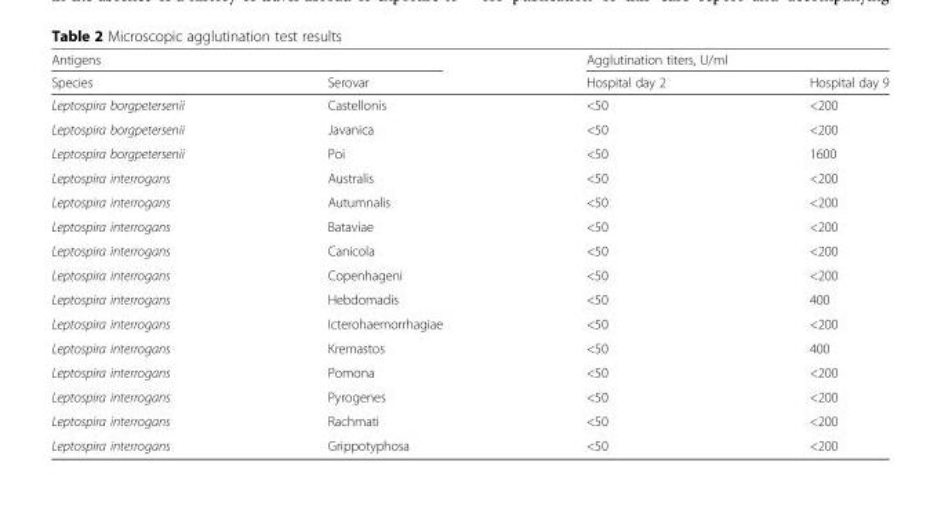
<table><thead><tr><td colspan="2">Antigens</td><td colspan="2">Agglutination titers, U/ml</td></tr><tr><td>Species</td><td>Serovar</td><td>Hospital day 2</td><td>Hospital day 9</td></tr></thead><tbody><tr><td>Leptospira borgpetersenii</td><td>Castellonis</td><td>&lt;50</td><td>&lt;200</td></tr><tr><td>Leptospira borgpetersenii</td><td>Javanica</td><td>&lt;50</td><td>&lt;200</td></tr><tr><td>Leptospira borgpetersenii</td><td>Poi</td><td>&lt;50</td><td>1600</td></tr><tr><td>Leptospira interrogans</td><td>Australis</td><td>&lt;50</td><td>&lt;200</td></tr><tr><td>Leptospira interrogans</td><td>Autumnalis</td><td>&lt;50</td><td>&lt;200</td></tr><tr><td>Leptospira interrogans</td><td>Bataviae</td><td>&lt;50</td><td>&lt;200</td></tr><tr><td>Leptospira interrogans</td><td>Canicola</td><td>&lt;50</td><td>&lt;200</td></tr><tr><td>Leptospira interrogans</td><td>Copenhageni</td><td>&lt;50</td><td>&lt;200</td></tr><tr><td>Leptospira interrogans</td><td>Hebdomadis</td><td>&lt;50</td><td>400</td></tr><tr><td>Leptospira interrogans</td><td>Icterohaemorrhagiae</td><td>&lt;50</td><td>&lt;200</td></tr><tr><td>Leptospira interrogans</td><td>Kremastos</td><td>&lt;50</td><td>400</td></tr><tr><td>Leptospira interrogans</td><td>Pomona</td><td>&lt;50</td><td>&lt;200</td></tr><tr><td>Leptospira interrogans</td><td>Pyrogenes</td><td>&lt;50</td><td>&lt;200</td></tr><tr><td>Leptospira interrogans</td><td>Rachmati</td><td>&lt;50</td><td>&lt;200</td></tr><tr><td>Leptospira interrogans</td><td>Grippotyphosa</td><td>&lt;50</td><td>&lt;200</td></tr></tbody></table>